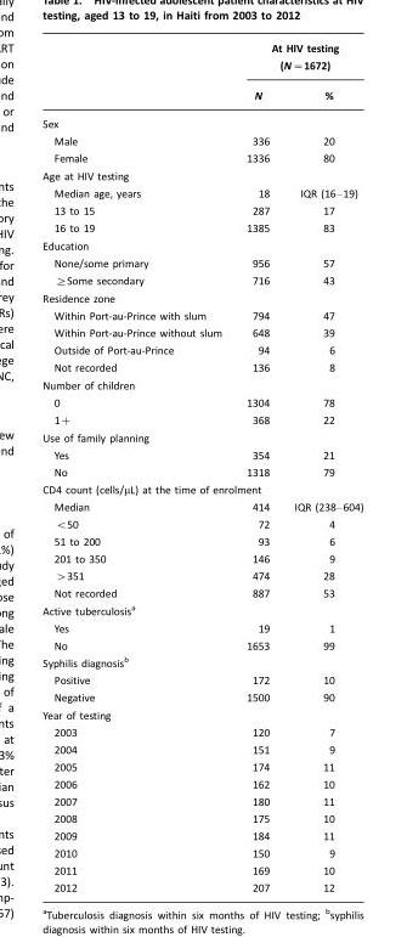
<table><thead><tr><td rowspan="2"></td><td colspan="2">At HIV testing (N=1672)</td></tr><tr><td>N</td><td>%</td></tr></thead><tbody><tr><td colspan="3">Sex</td></tr><tr><td>Male</td><td>336</td><td>20</td></tr><tr><td>Female</td><td>1336</td><td>80</td></tr><tr><td colspan="3">Age at HIV testing</td></tr><tr><td>Median age, years</td><td>18</td><td>IQR (16–19)</td></tr><tr><td>13 to 15</td><td>287</td><td>17</td></tr><tr><td>16 to 19</td><td>1385</td><td>83</td></tr><tr><td colspan="3">Education</td></tr><tr><td>None/some primary</td><td>956</td><td>57</td></tr><tr><td>≥Some secondary</td><td>716</td><td>43</td></tr><tr><td colspan="3">Residence zone</td></tr><tr><td>Within Port-au-Prince with slum</td><td>794</td><td>47</td></tr><tr><td>Within Port-au-Prince without slum</td><td>648</td><td>39</td></tr><tr><td>Outside of Port-au-Prince</td><td>94</td><td>6</td></tr><tr><td>Not recorded</td><td>136</td><td>8</td></tr><tr><td colspan="3">Number of children</td></tr><tr><td>0</td><td>1304</td><td>78</td></tr><tr><td>1+</td><td>368</td><td>22</td></tr><tr><td colspan="3">Use of family planning</td></tr><tr><td>Yes</td><td>354</td><td>21</td></tr><tr><td>No</td><td>1318</td><td>79</td></tr><tr><td colspan="3">CD4 count (cells/µL) at the time of enrolment</td></tr><tr><td>Median</td><td>414</td><td>IQR (238–604)</td></tr><tr><td>&lt;50</td><td>72</td><td>4</td></tr><tr><td>51 to 200</td><td>93</td><td>6</td></tr><tr><td>201 to 350</td><td>146</td><td>9</td></tr><tr><td>&gt;351</td><td>474</td><td>28</td></tr><tr><td>Not recorded</td><td>887</td><td>53</td></tr><tr><td colspan="3">Active tuberculosis<sup>a</sup></td></tr><tr><td>Yes</td><td>19</td><td>1</td></tr><tr><td>No</td><td>1653</td><td>99</td></tr><tr><td colspan="3">Syphilis diagnosis<sup>b</sup></td></tr><tr><td>Positive</td><td>172</td><td>10</td></tr><tr><td>Negative</td><td>1500</td><td>90</td></tr><tr><td colspan="3">Year of testing</td></tr><tr><td>2003</td><td>120</td><td>7</td></tr><tr><td>2004</td><td>151</td><td>9</td></tr><tr><td>2005</td><td>174</td><td>11</td></tr><tr><td>2006</td><td>162</td><td>10</td></tr><tr><td>2007</td><td>180</td><td>11</td></tr><tr><td>2008</td><td>175</td><td>10</td></tr><tr><td>2009</td><td>184</td><td>11</td></tr><tr><td>2010</td><td>150</td><td>9</td></tr><tr><td>2011</td><td>169</td><td>10</td></tr><tr><td>2012</td><td>207</td><td>12</td></tr></tbody></table>